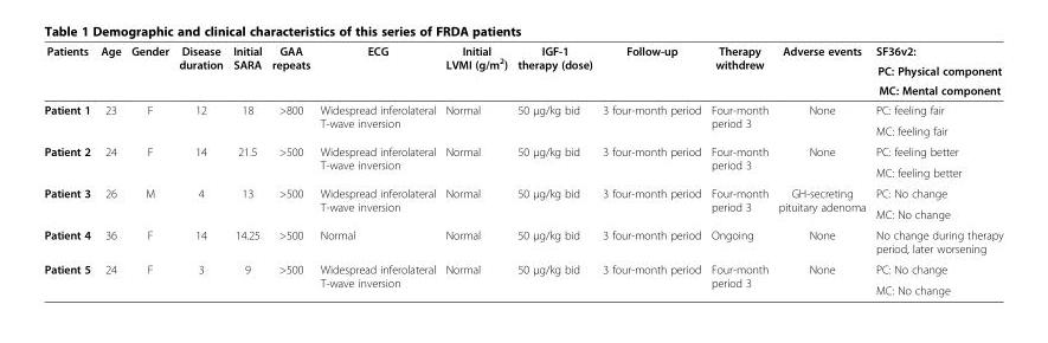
<table><thead><tr><td rowspan="3">Patients</td><td rowspan="3">Age</td><td rowspan="3">Gender</td><td rowspan="3">Disease duration</td><td rowspan="3">Initial SARA</td><td rowspan="3">GAA repeats</td><td rowspan="3">ECG</td><td rowspan="3">Initial LVMI (g/m<sup>2</sup>)</td><td rowspan="3">IGF-1 therapy (dose)</td><td rowspan="3">Follow-up</td><td rowspan="3">Therapy withdrew</td><td rowspan="3">Adverse events</td><td rowspan="3">SF36v2: PC: Physical component MC: Mental component</td></tr><tr></tr><tr></tr></thead><tbody><tr><td rowspan="2">Patient 1</td><td rowspan="2">23</td><td rowspan="2">F</td><td rowspan="2">12</td><td rowspan="2">18</td><td rowspan="2">&gt;800</td><td rowspan="2">Widespread inferolateral T-wave inversion</td><td rowspan="2">Normal</td><td rowspan="2">50 μg/kg bid</td><td rowspan="2">3 four-month period</td><td rowspan="2">Four-month period 3</td><td rowspan="2">None</td><td>PC: feeling fair</td></tr><tr><td>MC: feeling fair</td></tr><tr><td rowspan="2">Patient 2</td><td rowspan="2">24</td><td rowspan="2">F</td><td rowspan="2">14</td><td rowspan="2">21.5</td><td rowspan="2">&gt;500</td><td rowspan="2">Widespread inferolateral T-wave inversion</td><td rowspan="2">Normal</td><td rowspan="2">50 μg/kg bid</td><td rowspan="2">3 four-month period</td><td rowspan="2">Four-month period 3</td><td rowspan="2">None</td><td>PC: feeling better</td></tr><tr><td>MC: feeling better</td></tr><tr><td rowspan="2">Patient 3</td><td rowspan="2">26</td><td rowspan="2">M</td><td rowspan="2">4</td><td rowspan="2">13</td><td rowspan="2">&gt;500</td><td rowspan="2">Widespread inferolateral T-wave inversion</td><td rowspan="2">Normal</td><td rowspan="2">50 μg/kg bid</td><td rowspan="2">3 four-month period</td><td rowspan="2">Four-month period 3</td><td rowspan="2">GH-secreting pituitary adenoma</td><td>PC: No change</td></tr><tr><td>MC: No change</td></tr><tr><td>Patient 4</td><td>36</td><td>F</td><td>14</td><td>14.25</td><td>&gt;500</td><td>Normal</td><td>Normal</td><td>50 μg/kg bid</td><td>3 four-month period</td><td>Ongoing</td><td>None</td><td>No change during therapy period, later worsening</td></tr><tr><td rowspan="2">Patient 5</td><td rowspan="2">24</td><td rowspan="2">F</td><td rowspan="2">3</td><td rowspan="2">9</td><td rowspan="2">&gt;500</td><td rowspan="2">Widespread inferolateral T-wave inversion</td><td rowspan="2">Normal</td><td rowspan="2">50 μg/kg bid</td><td rowspan="2">3 four-month period</td><td rowspan="2">Four-month period 3</td><td rowspan="2">None</td><td>PC: No change</td></tr><tr><td>MC: No change</td></tr></tbody></table>